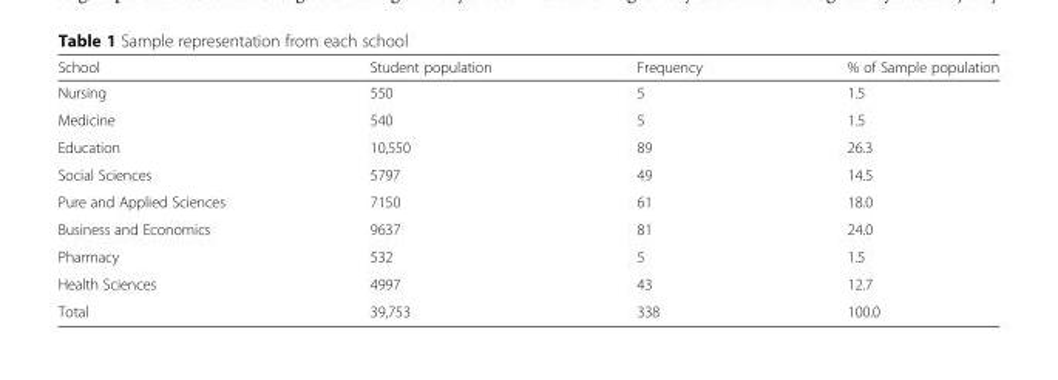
<table><thead><tr><td>School</td><td>Student population</td><td>Frequency</td><td>% of Sample population</td></tr></thead><tbody><tr><td>Nursing</td><td>550</td><td>5</td><td>1.5</td></tr><tr><td>Medicine</td><td>540</td><td>5</td><td>1.5</td></tr><tr><td>Education</td><td>10,550</td><td>89</td><td>26.3</td></tr><tr><td>Social Sciences</td><td>5797</td><td>49</td><td>14.5</td></tr><tr><td>Pure and Applied Sciences</td><td>7150</td><td>61</td><td>18.0</td></tr><tr><td>Business and Economics</td><td>9637</td><td>81</td><td>24.0</td></tr><tr><td>Pharmacy</td><td>532</td><td>5</td><td>1.5</td></tr><tr><td>Health Sciences</td><td>4997</td><td>43</td><td>12.7</td></tr><tr><td>Total</td><td>39,753</td><td>338</td><td>100.0</td></tr></tbody></table>